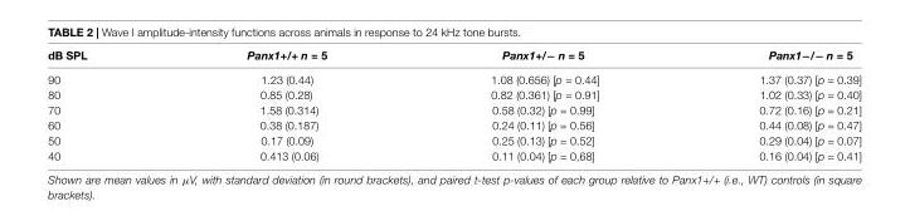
<table><thead><tr><td>dB SPL</td><td>Panx1+/+ n = 5</td><td>Panx1+/− n = 5</td><td>Panx1−/− n = 5</td></tr></thead><tbody><tr><td>90</td><td>1.23 (0.44)</td><td>1.08 (0.656) [p = 0.44]</td><td>1.37 (0.37) [p = 0.39]</td></tr><tr><td>80</td><td>0.85 (0.28)</td><td>0.82 (0.361) [p = 0.91]</td><td>1.02 (0.33) [p = 0.40]</td></tr><tr><td>70</td><td>1.58 (0.314)</td><td>0.58 (0.32) [p = 0.99]</td><td>0.72 (0.16) [p = 0.21]</td></tr><tr><td>60</td><td>0.38 (0.187)</td><td>0.24 (0.11) [p = 0.56]</td><td>0.44 (0.08) [p = 0.47]</td></tr><tr><td>50</td><td>0.17 (0.09)</td><td>0.25 (0.13) [p = 0.52]</td><td>0.29 (0.04) [p = 0.07]</td></tr><tr><td>40</td><td>0.413 (0.06)</td><td>0.11 (0.04) [p = 0,68]</td><td>0.16 (0.04) [p = 0.41]</td></tr></tbody></table>